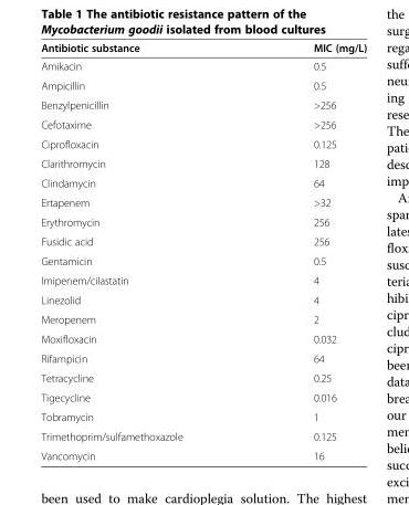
<table><thead><tr><td>Antibiotic substance</td><td>MIC (mg/L)</td></tr></thead><tbody><tr><td>Amikacin</td><td>0.5</td></tr><tr><td>Ampicillin</td><td>0.5</td></tr><tr><td>Benzylpenicillin</td><td>&gt;256</td></tr><tr><td>Cefotaxime</td><td>&gt;256</td></tr><tr><td>Ciprofloxacin</td><td>0.125</td></tr><tr><td>Clarithromycin</td><td>128</td></tr><tr><td>Clindamycin</td><td>64</td></tr><tr><td>Ertapenem</td><td>&gt;32</td></tr><tr><td>Erythromycin</td><td>256</td></tr><tr><td>Fusidic acid</td><td>256</td></tr><tr><td>Gentamicin</td><td>0.5</td></tr><tr><td>Imipenem/cilastatin</td><td>4</td></tr><tr><td>Linezolid</td><td>4</td></tr><tr><td>Meropenem</td><td>2</td></tr><tr><td>Moxifloxacin</td><td>0.032</td></tr><tr><td>Rifampicin</td><td>64</td></tr><tr><td>Tetracycline</td><td>0.25</td></tr><tr><td>Tigecycline</td><td>0.016</td></tr><tr><td>Tobramycin</td><td>1</td></tr><tr><td>Trimethoprim/sulfamethoxazole</td><td>0.125</td></tr><tr><td>Vancomycin</td><td>16</td></tr></tbody></table>